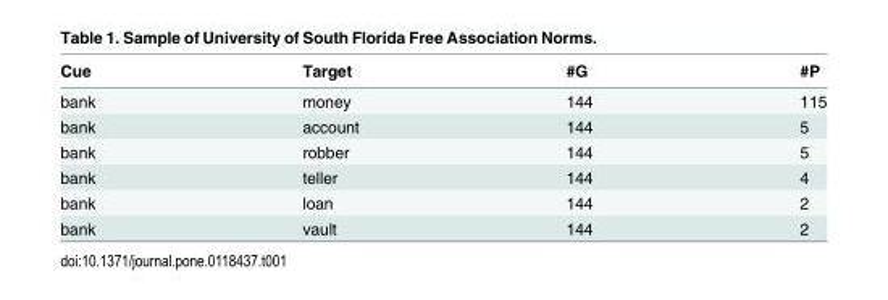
<table><thead><tr><td>Cue</td><td>Target</td><td>#G</td><td>#P</td></tr></thead><tbody><tr><td>bank</td><td>money</td><td>144</td><td>115</td></tr><tr><td>bank</td><td>account</td><td>144</td><td>5</td></tr><tr><td>bank</td><td>robber</td><td>144</td><td>5</td></tr><tr><td>bank</td><td>teller</td><td>144</td><td>4</td></tr><tr><td>bank</td><td>loan</td><td>144</td><td>2</td></tr><tr><td>bank</td><td>vault</td><td>144</td><td>2</td></tr></tbody></table>